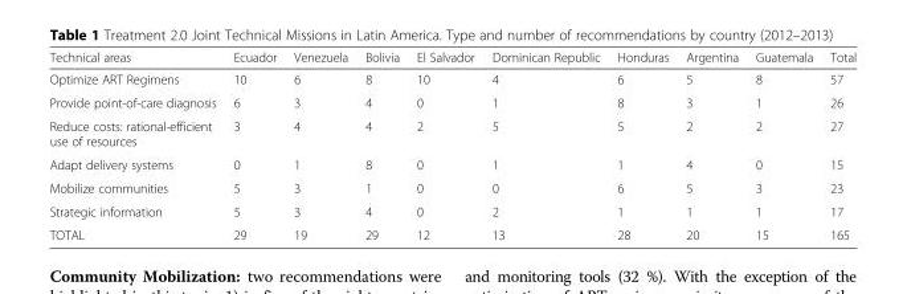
<table><thead><tr><td>Technical areas</td><td>Ecuador</td><td>Venezuela</td><td>Bolivia</td><td>El Salvador</td><td>Dominican Republic</td><td>Honduras</td><td>Argentina</td><td>Guatemala</td><td>Total</td></tr></thead><tbody><tr><td>Optimize ART Regimens</td><td>10</td><td>6</td><td>8</td><td>10</td><td>4</td><td>6</td><td>5</td><td>8</td><td>57</td></tr><tr><td>Provide point-of-care diagnosis</td><td>6</td><td>3</td><td>4</td><td>0</td><td>1</td><td>8</td><td>3</td><td>1</td><td>26</td></tr><tr><td>Reduce costs: rational-efficient use of resources</td><td>3</td><td>4</td><td>4</td><td>2</td><td>5</td><td>5</td><td>2</td><td>2</td><td>27</td></tr><tr><td>Adapt delivery systems</td><td>0</td><td>1</td><td>8</td><td>0</td><td>1</td><td>1</td><td>4</td><td>0</td><td>15</td></tr><tr><td>Mobilize communities</td><td>5</td><td>3</td><td>1</td><td>0</td><td>0</td><td>6</td><td>5</td><td>3</td><td>23</td></tr><tr><td>Strategic information</td><td>5</td><td>3</td><td>4</td><td>0</td><td>2</td><td>1</td><td>1</td><td>1</td><td>17</td></tr><tr><td>TOTAL</td><td>29</td><td>19</td><td>29</td><td>12</td><td>13</td><td>28</td><td>20</td><td>15</td><td>165</td></tr></tbody></table>